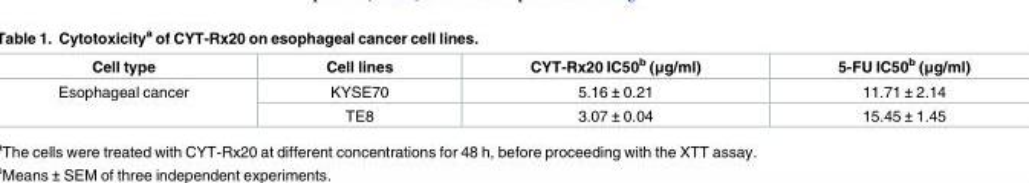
<table><thead><tr><td>Cell type</td><td>Cell lines</td><td>CYT-Rx20 IC50<sup>b</sup> (μg/ml)</td><td>5-FU IC50<sup>b</sup> (μg/ml)</td></tr></thead><tbody><tr><td rowspan="2">Esophageal cancer</td><td>KYSE70</td><td>5.16 ± 0.21</td><td>11.71 ± 2.14</td></tr><tr><td>TE8</td><td>3.07 ± 0.04</td><td>15.45 ± 1.45</td></tr></tbody></table>